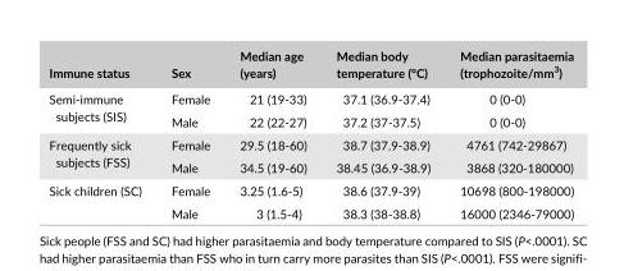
<table><thead><tr><td>Immune status</td><td>Sex</td><td>Median age (years)</td><td>Median body temperature (°C)</td><td>Median parasitaemia (trophozoite/mm<sup>3</sup>)</td></tr></thead><tbody><tr><td rowspan="2">Semi- immune subjects (SIS)</td><td>Female</td><td>21 (19- 33)</td><td>37.1 (36.9- 37.4)</td><td>0 (0- 0)</td></tr><tr><td>Male</td><td>22 (22- 27)</td><td>37.2 (37- 37.5)</td><td>0 (0- 0)</td></tr><tr><td rowspan="2">Frequently sick subjects (FSS)</td><td>Female</td><td>29.5 (18- 60)</td><td>38.7 (37.9- 38.9)</td><td>4761 (742- 29867)</td></tr><tr><td>Male</td><td>34.5 (19- 60)</td><td>38.45 (36.9- 38.9)</td><td>3868 (320- 180000)</td></tr><tr><td rowspan="2">Sick children (SC)</td><td>Female</td><td>3.25 (1.6- 5)</td><td>38.6 (37.9- 39)</td><td>10698 (800- 198000)</td></tr><tr><td>Male</td><td>3 (1.5- 4)</td><td>38.3 (38- 38.8)</td><td>16000 (2346- 79000)</td></tr></tbody></table>